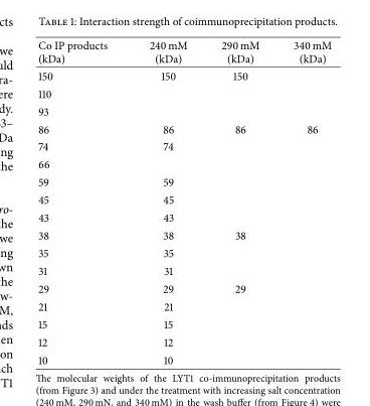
<table><thead><tr><td>Co IP products (kDa)</td><td>240 mM (kDa)</td><td>290 mM (kDa)</td><td>340 mM (kDa)</td></tr></thead><tbody><tr><td>150</td><td>150</td><td>150</td><td></td></tr><tr><td colspan="4">110</td></tr><tr><td colspan="4">93</td></tr><tr><td>86</td><td>86</td><td>86</td><td>86</td></tr><tr><td>74</td><td>74</td><td></td><td></td></tr><tr><td colspan="4">66</td></tr><tr><td>59</td><td>59</td><td></td><td></td></tr><tr><td>45</td><td>45</td><td></td><td></td></tr><tr><td>43</td><td>43</td><td></td><td></td></tr><tr><td>38</td><td>38</td><td>38</td><td></td></tr><tr><td>35</td><td>35</td><td></td><td></td></tr><tr><td>31</td><td>31</td><td></td><td></td></tr><tr><td>29</td><td>29</td><td>29</td><td></td></tr><tr><td>21</td><td>21</td><td></td><td></td></tr><tr><td>15</td><td>15</td><td></td><td></td></tr><tr><td>12</td><td>12</td><td></td><td></td></tr><tr><td>10</td><td>10</td><td></td><td></td></tr></tbody></table>